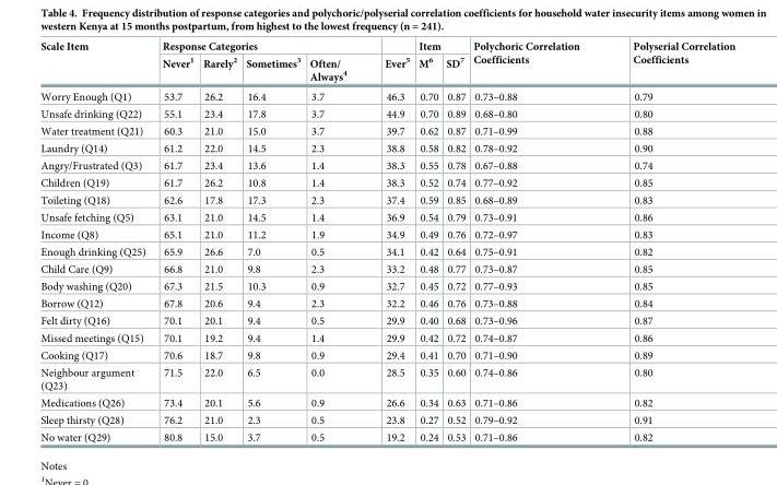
<table><thead><tr><td rowspan="2">Scale Item</td><td colspan="4">Response Categories</td><td rowspan="2">Ever<sup>5</sup></td><td colspan="2">Item</td><td rowspan="2">Polychoric Correlation Coefficients</td><td rowspan="2">Polyserial Correlation Coefficients</td></tr><tr><td>Never<sup>1</sup></td><td>Rarely<sup>2</sup></td><td>Sometimes<sup>3</sup></td><td>Often/ Always<sup>4</sup></td><td>M<sup>6</sup></td><td>SD<sup>7</sup></td></tr></thead><tbody><tr><td>Worry Enough (Q1)</td><td>53.7</td><td>26.2</td><td>16.4</td><td>3.7</td><td>46.3</td><td>0.70</td><td>0.87</td><td>0.73–0.88</td><td>0.79</td></tr><tr><td>Unsafe drinking (Q22)</td><td>55.1</td><td>23.4</td><td>17.8</td><td>3.7</td><td>44.9</td><td>0.70</td><td>0.89</td><td>0.68–0.80</td><td>0.80</td></tr><tr><td>Water treatment (Q21)</td><td>60.3</td><td>21.0</td><td>15.0</td><td>3.7</td><td>39.7</td><td>0.62</td><td>0.87</td><td>0.71–0.99</td><td>0.88</td></tr><tr><td>Laundry (Q14)</td><td>61.2</td><td>22.0</td><td>14.5</td><td>2.3</td><td>38.8</td><td>0.58</td><td>0.82</td><td>0.78–0.92</td><td>0.90</td></tr><tr><td>Angry/Frustrated (Q3)</td><td>61.7</td><td>23.4</td><td>13.6</td><td>1.4</td><td>38.3</td><td>0.55</td><td>0.78</td><td>0.67–0.88</td><td>0.74</td></tr><tr><td>Children (Q19)</td><td>61.7</td><td>26.2</td><td>10.8</td><td>1.4</td><td>38.3</td><td>0.52</td><td>0.74</td><td>0.77–0.92</td><td>0.85</td></tr><tr><td>Toileting (Q18)</td><td>62.6</td><td>17.8</td><td>17.3</td><td>2.3</td><td>37.4</td><td>0.59</td><td>0.85</td><td>0.68–0.89</td><td>0.83</td></tr><tr><td>Unsafe fetching (Q5)</td><td>63.1</td><td>21.0</td><td>14.5</td><td>1.4</td><td>36.9</td><td>0.54</td><td>0.79</td><td>0.73–0.91</td><td>0.86</td></tr><tr><td>Income (Q8)</td><td>65.1</td><td>21.0</td><td>11.2</td><td>1.9</td><td>34.9</td><td>0.49</td><td>0.76</td><td>0.72–0.97</td><td>0.83</td></tr><tr><td>Enough drinking (Q25)</td><td>65.9</td><td>26.6</td><td>7.0</td><td>0.5</td><td>34.1</td><td>0.42</td><td>0.64</td><td>0.75–0.91</td><td>0.82</td></tr><tr><td>Child Care (Q9)</td><td>66.8</td><td>21.0</td><td>9.8</td><td>2.3</td><td>33.2</td><td>0.48</td><td>0.77</td><td>0.73–0.87</td><td>0.85</td></tr><tr><td>Body washing (Q20)</td><td>67.3</td><td>21.5</td><td>10.3</td><td>0.9</td><td>32.7</td><td>0.45</td><td>0.72</td><td>0.77–0.93</td><td>0.85</td></tr><tr><td>Borrow (Q12)</td><td>67.8</td><td>20.6</td><td>9.4</td><td>2.3</td><td>32.2</td><td>0.46</td><td>0.76</td><td>0.73–0.88</td><td>0.84</td></tr><tr><td>Felt dirty (Q16)</td><td>70.1</td><td>20.1</td><td>9.4</td><td>0.5</td><td>29.9</td><td>0.40</td><td>0.68</td><td>0.73–0.96</td><td>0.87</td></tr><tr><td>Missed meetings (Q15)</td><td>70.1</td><td>19.2</td><td>9.4</td><td>1.4</td><td>29.9</td><td>0.42</td><td>0.72</td><td>0.74–0.87</td><td>0.86</td></tr><tr><td>Cooking (Q17)</td><td>70.6</td><td>18.7</td><td>9.8</td><td>0.9</td><td>29.4</td><td>0.41</td><td>0.70</td><td>0.71–0.90</td><td>0.89</td></tr><tr><td>Neighbour argument (Q23)</td><td>71.5</td><td>22.0</td><td>6.5</td><td>0.0</td><td>28.5</td><td>0.35</td><td>0.60</td><td>0.74–0.86</td><td>0.80</td></tr><tr><td>Medications (Q26)</td><td>73.4</td><td>20.1</td><td>5.6</td><td>0.9</td><td>26.6</td><td>0.34</td><td>0.63</td><td>0.71–0.86</td><td>0.82</td></tr><tr><td>Sleep thirsty (Q28)</td><td>76.2</td><td>21.0</td><td>2.3</td><td>0.5</td><td>23.8</td><td>0.27</td><td>0.52</td><td>0.79–0.92</td><td>0.91</td></tr><tr><td>No water (Q29)</td><td>80.8</td><td>15.0</td><td>3.7</td><td>0.5</td><td>19.2</td><td>0.24</td><td>0.53</td><td>0.71–0.86</td><td>0.82</td></tr></tbody></table>